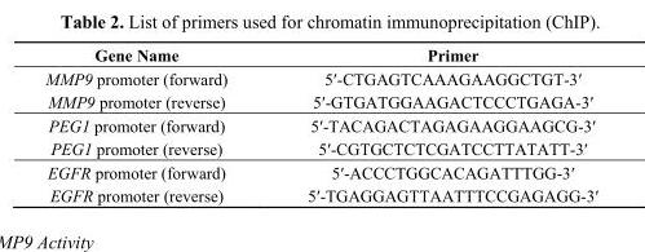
<table><thead><tr><td>Gene Name</td><td>Primer</td></tr></thead><tbody><tr><td>MMP9 promoter (forward)</td><td>5′-CTGAGTCAAAGAAGGCTGT-3′</td></tr><tr><td>MMP9 promoter (reverse)</td><td>5′-GTGATGGAAGACTCCCTGAGA-3′</td></tr><tr><td>PEG1 promoter (forward)</td><td>5′-TACAGACTAGAGAAGGAAGCG-3′</td></tr><tr><td>PEG1 promoter (reverse)</td><td>5′-CGTGCTCTCGATCCTTATATT-3′</td></tr><tr><td>EGFR promoter (forward)</td><td>5′-ACCCTGGCACAGATTTGG-3′</td></tr><tr><td>EGFR promoter (reverse)</td><td>5′-TGAGGAGTTAATTTCCGAGAGG-3′</td></tr></tbody></table>